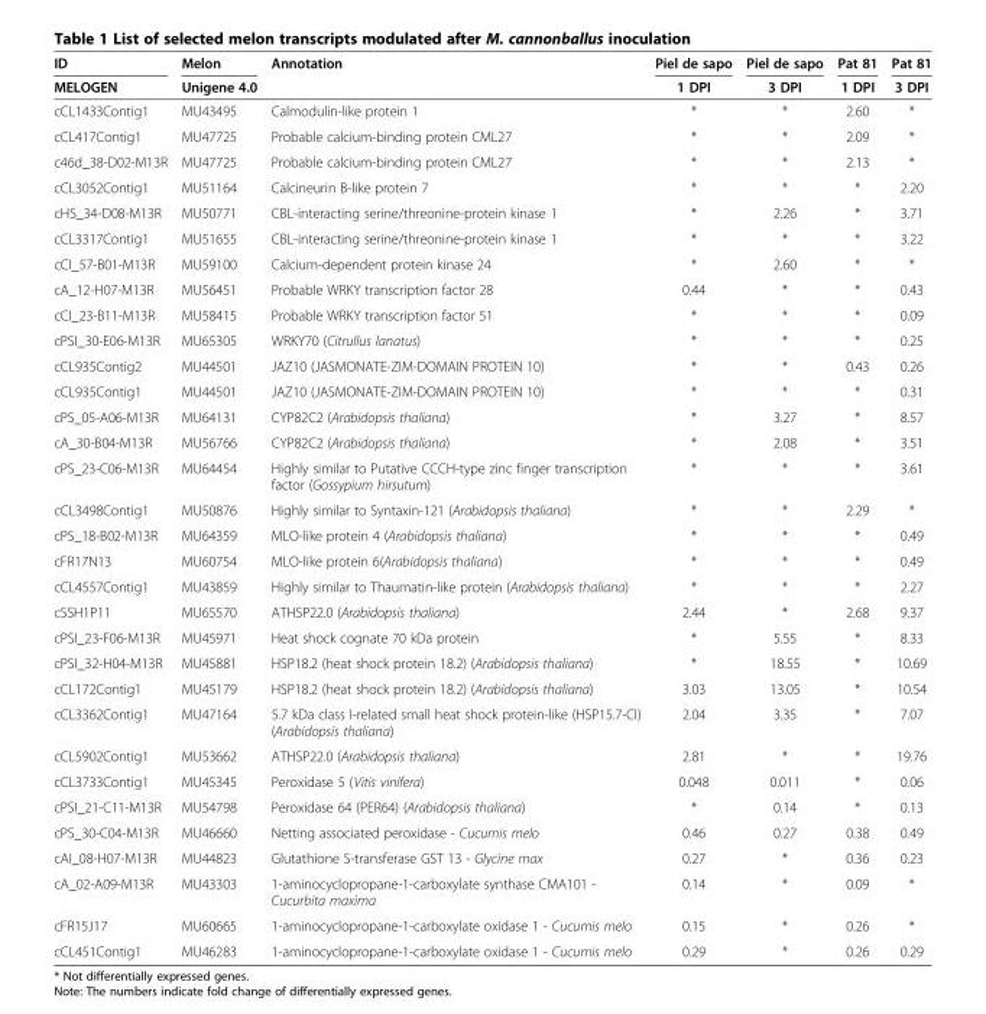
<table><thead><tr><td rowspan="2">ID MELOGEN</td><td rowspan="2">Melon Unigene 4.0</td><td rowspan="2">Annotation</td><td rowspan="2">Piel de sapo 1 DPI</td><td rowspan="2">Piel de sapo 3 DPI</td><td rowspan="2">Pat 81 1 DPI</td><td rowspan="2">Pat 81 3 DPI</td></tr><tr></tr></thead><tbody><tr><td>cCL1433Contig1</td><td>MU43495</td><td>Calmodulin-like protein 1</td><td>*</td><td>*</td><td>2.60</td><td>*</td></tr><tr><td>cCL417Contig1</td><td>MU47725</td><td>Probable calcium-binding protein CML27</td><td>*</td><td>*</td><td>2.09</td><td>*</td></tr><tr><td>c46d_38-D02-M13R</td><td>MU47725</td><td>Probable calcium-binding protein CML27</td><td>*</td><td>*</td><td>2.13</td><td>*</td></tr><tr><td>cCL3052Contig1</td><td>MU51164</td><td>Calcineurin B-like protein 7</td><td>*</td><td>*</td><td>*</td><td>2.20</td></tr><tr><td>cHS_34-D08-M13R</td><td>MU50771</td><td>CBL-interacting serine/threonine-protein kinase 1</td><td>*</td><td>2.26</td><td>*</td><td>3.71</td></tr><tr><td>cCL3317Contig1</td><td>MU51655</td><td>CBL-interacting serine/threonine-protein kinase 1</td><td>*</td><td>*</td><td>*</td><td>3.22</td></tr><tr><td>cCI_57-B01-M13R</td><td>MU59100</td><td>Calcium-dependent protein kinase 24</td><td>*</td><td>2.60</td><td>*</td><td>*</td></tr><tr><td>cA_12-H07-M13R</td><td>MU56451</td><td>Probable WRKY transcription factor 28</td><td>0.44</td><td>*</td><td>*</td><td>0.43</td></tr><tr><td>cCI_23-B11-M13R</td><td>MU58415</td><td>Probable WRKY transcription factor 51</td><td>*</td><td>*</td><td>*</td><td>0.09</td></tr><tr><td>cPSI_30-E06-M13R</td><td>MU65305</td><td>WRKY70 (Citrullus lanatus)</td><td>*</td><td>*</td><td>*</td><td>0.25</td></tr><tr><td>cCL935Contig2</td><td>MU44501</td><td>JAZ10 (JASMONATE-ZIM-DOMAIN PROTEIN 10)</td><td>*</td><td>*</td><td>0.43</td><td>0.26</td></tr><tr><td>cCL935Contig1</td><td>MU44501</td><td>JAZ10 (JASMONATE-ZIM-DOMAIN PROTEIN 10)</td><td>*</td><td>*</td><td>*</td><td>0.31</td></tr><tr><td>cPS_05-A06-M13R</td><td>MU64131</td><td>CYP82C2 (Arabidopsis thaliana)</td><td>*</td><td>3.27</td><td>*</td><td>8.57</td></tr><tr><td>cA_30-B04-M13R</td><td>MU56766</td><td>CYP82C2 (Arabidopsis thaliana)</td><td>*</td><td>2.08</td><td>*</td><td>3.51</td></tr><tr><td>cPS_23-C06-M13R</td><td>MU64454</td><td>Highly similar to Putative CCCH-type zinc finger transcription factor (Gossypium hirsutum)</td><td>*</td><td>*</td><td>*</td><td>3.61</td></tr><tr><td>cCL3498Contig1</td><td>MU50876</td><td>Highly similar to Syntaxin-121 (Arabidopsis thaliana)</td><td>*</td><td>*</td><td>2.29</td><td>*</td></tr><tr><td>cPS_18-B02-M13R</td><td>MU64359</td><td>MLO-like protein 4 (Arabidopsis thaliana)</td><td>*</td><td>*</td><td>*</td><td>0.49</td></tr><tr><td>cFR17N13</td><td>MU60754</td><td>MLO-like protein 6(Arabidopsis thaliana)</td><td>*</td><td>*</td><td>*</td><td>0.49</td></tr><tr><td>cCL4557Contig1</td><td>MU43859</td><td>Highly similar to Thaumatin-like protein (Arabidopsis thaliana)</td><td>*</td><td>*</td><td>*</td><td>2.27</td></tr><tr><td>cSSH1P11</td><td>MU65570</td><td>ATHSP22.0 (Arabidopsis thaliana)</td><td>2.44</td><td>*</td><td>2.68</td><td>9.37</td></tr><tr><td>cPSI_23-F06-M13R</td><td>MU45971</td><td>Heat shock cognate 70 kDa protein</td><td>*</td><td>5.55</td><td>*</td><td>8.33</td></tr><tr><td>cPSI_32-H04-M13R</td><td>MU45881</td><td>HSP18.2 (heat shock protein 18.2) (Arabidopsis thaliana)</td><td>*</td><td>18.55</td><td>*</td><td>10.69</td></tr><tr><td>cCL172Contig1</td><td>MU45179</td><td>HSP18.2 (heat shock protein 18.2) (Arabidopsis thaliana)</td><td>3.03</td><td>13.05</td><td>*</td><td>10.54</td></tr><tr><td>cCL3362Contig1</td><td>MU47164</td><td>5.7 kDa class I-related small heat shock protein-like (HSP15.7-CI) (Arabidopsis thaliana)</td><td>2.04</td><td>3.35</td><td>*</td><td>7.07</td></tr><tr><td>cCL5902Contig1</td><td>MU53662</td><td>ATHSP22.0 (Arabidopsis thaliana)</td><td>2.81</td><td>*</td><td>*</td><td>19.76</td></tr><tr><td>cCL3733Contig1</td><td>MU45345</td><td>Peroxidase 5 (Vitis vinífera)</td><td>0.048</td><td>0.011</td><td>*</td><td>0.06</td></tr><tr><td>cPSI_21-C11-M13R</td><td>MU54798</td><td>Peroxidase 64 (PER64) (Arabidopsis thaliana)</td><td>*</td><td>0.14</td><td>*</td><td>0.13</td></tr><tr><td>cPS_30-C04-M13R</td><td>MU46660</td><td>Netting associated peroxidase - Cucumis melo</td><td>0.46</td><td>0.27</td><td>0.38</td><td>0.49</td></tr><tr><td>cAI_08-H07-M13R</td><td>MU44823</td><td>Glutathione S-transferase GST 13 - Glycine max</td><td>0.27</td><td>*</td><td>0.36</td><td>0.23</td></tr><tr><td>cA_02-A09-M13R</td><td>MU43303</td><td>1-aminocyclopropane-1-carboxylate synthase CMA101 - Cucurbita maxima</td><td>0.14</td><td>*</td><td>0.09</td><td>*</td></tr><tr><td>cFR15J17</td><td>MU60665</td><td>1-aminocyclopropane-1-carboxylate oxidase 1 - Cucumis melo</td><td>0.15</td><td>*</td><td>0.26</td><td>*</td></tr><tr><td>cCL451Contig1</td><td>MU46283</td><td>1-aminocyclopropane-1-carboxylate oxidase 1 - Cucumis melo</td><td>0.29</td><td>*</td><td>0.26</td><td>0.29</td></tr></tbody></table>